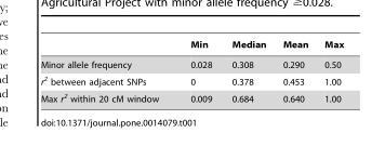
<table><thead><tr><td></td><td>Min</td><td>Median</td><td>Mean</td><td>Max</td></tr></thead><tbody><tr><td>Minor allele frequency</td><td>0.028</td><td>0.308</td><td>0.290</td><td>0.50</td></tr><tr><td>r<sup>2</sup> between adjacent SNPs</td><td>0</td><td>0.378</td><td>0.453</td><td>1.00</td></tr><tr><td>Max r<sup>2</sup> within 20 cM window</td><td>0.009</td><td>0.684</td><td>0.640</td><td>1.00</td></tr></tbody></table>